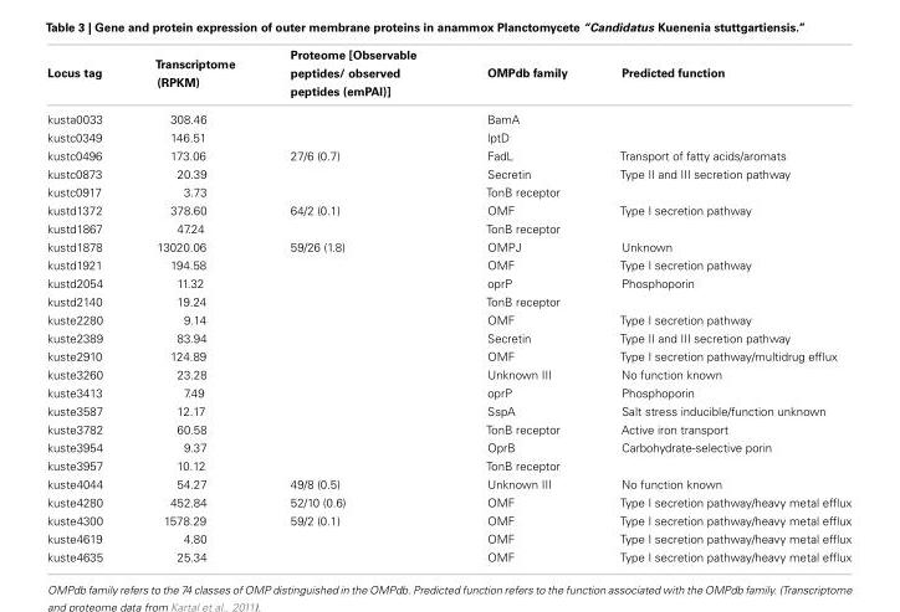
<table><thead><tr><td>Locus tag</td><td>Transcriptome (RPKM)</td><td>Proteome [Observable peptides/ observed peptides (emPAI)]</td><td>OMPdb family</td><td>Predicted function</td></tr></thead><tbody><tr><td>kusta0033</td><td>308.46</td><td></td><td>BamA</td><td></td></tr><tr><td>kustc0349</td><td>146.51</td><td></td><td>lptD</td><td></td></tr><tr><td>kustc0496</td><td>173.06</td><td>27/6 (0.7)</td><td>FadL</td><td>Transport of fatty acids/aromats</td></tr><tr><td>kustc0873</td><td>20.39</td><td></td><td>Secretin</td><td>Type II and III secretion pathway</td></tr><tr><td>kustc0917</td><td>3.73</td><td></td><td>TonB receptor</td><td></td></tr><tr><td>kustd1372</td><td>378.60</td><td>64/2 (0.1)</td><td>OMF</td><td>Type I secretion pathway</td></tr><tr><td>kustd1867</td><td>47.24</td><td></td><td>TonB receptor</td><td></td></tr><tr><td>kustd1878</td><td>13020.06</td><td>59/26 (1.8)</td><td>OMPJ</td><td>Unknown</td></tr><tr><td>kustd1921</td><td>194.58</td><td></td><td>OMF</td><td>Type I secretion pathway</td></tr><tr><td>kustd2054</td><td>11.32</td><td></td><td>oprP</td><td>Phosphoporin</td></tr><tr><td>kustd2140</td><td>19.24</td><td></td><td>TonB receptor</td><td></td></tr><tr><td>kuste2280</td><td>9.14</td><td></td><td>OMF</td><td>Type I secretion pathway</td></tr><tr><td>kuste2389</td><td>83.94</td><td></td><td>Secretin</td><td>Type II and III secretion pathway</td></tr><tr><td>kuste2910</td><td>124.89</td><td></td><td>OMF</td><td>Type I secretion pathway/multidrug efflux</td></tr><tr><td>kuste3260</td><td>23.28</td><td></td><td>Unknown III</td><td>No function known</td></tr><tr><td>kuste3413</td><td>7.49</td><td></td><td>oprP</td><td>Phosphoporin</td></tr><tr><td>kuste3587</td><td>12.17</td><td></td><td>SspA</td><td>Salt stress inducible/function unknown</td></tr><tr><td>kuste3782</td><td>60.58</td><td></td><td>TonB receptor</td><td>Active iron transport</td></tr><tr><td>kuste3954</td><td>9.37</td><td></td><td>OprB</td><td>Carbohydrate-selective porin</td></tr><tr><td>kuste3957</td><td>10.12</td><td></td><td>TonB receptor</td><td></td></tr><tr><td>kuste4044</td><td>54.27</td><td>49/8 (0.5)</td><td>Unknown III</td><td>No function known</td></tr><tr><td>kuste4280</td><td>452.84</td><td>52/10 (0.6)</td><td>OMF</td><td>Type I secretion pathway/heavy metal efflux</td></tr><tr><td>kuste4300</td><td>1578.29</td><td>59/2 (0.1)</td><td>OMF</td><td>Type I secretion pathway/heavy metal efflux</td></tr><tr><td>kuste4619</td><td>4.80</td><td></td><td>OMF</td><td>Type I secretion pathway/heavy metal efflux</td></tr><tr><td>kuste4635</td><td>25.34</td><td></td><td>OMF</td><td>Type I secretion pathway/heavy metal efflux</td></tr></tbody></table>